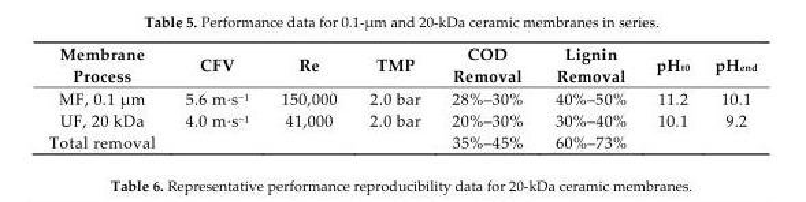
<table><thead><tr><td>Membrane Process</td><td>CFV</td><td>Re</td><td>TMP</td><td>COD Removal</td><td>Lignin Removal</td><td>pH<sub>t0</sub></td><td>pH<sub>end</sub></td></tr></thead><tbody><tr><td>MF, 0.1 µm</td><td>5.6 m·s<sup>−1</sup></td><td>150,000</td><td>2.0 bar</td><td>28%–30%</td><td>40%–50%</td><td>11.2</td><td>10.1</td></tr><tr><td>UF, 20 kDa</td><td>4.0 m·s<sup>−1</sup></td><td>41,000</td><td>2.0 bar</td><td>20%–30%</td><td>30%–40%</td><td>10.1</td><td>9.2</td></tr><tr><td>Total removal</td><td></td><td></td><td></td><td>35%–45%</td><td>60%–73%</td><td></td><td></td></tr></tbody></table>